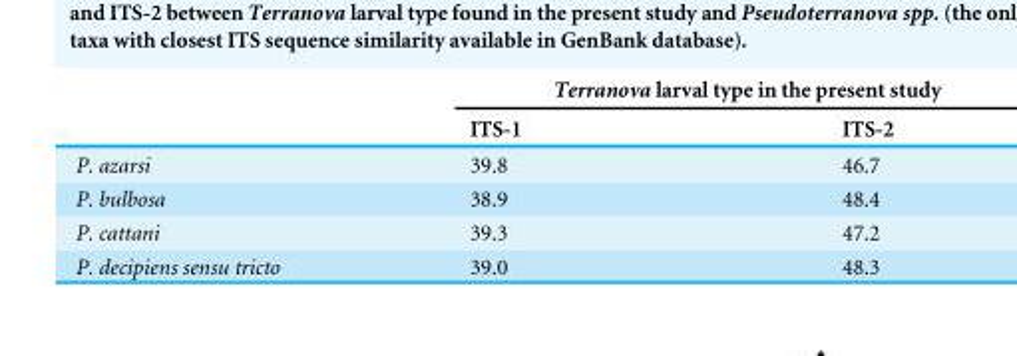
<table><thead><tr><td rowspan="2"></td><td colspan="2">Terranova larval type in the present study</td></tr><tr><td>ITS-1</td><td>ITS-2</td></tr></thead><tbody><tr><td>P. azarsi</td><td>39.8</td><td>46.7</td></tr><tr><td>P. bulbosa</td><td>38.9</td><td>48.4</td></tr><tr><td>P. cattani</td><td>39.3</td><td>47.2</td></tr><tr><td>P. decipiens sensu tricto</td><td>39.0</td><td>48.3</td></tr></tbody></table>